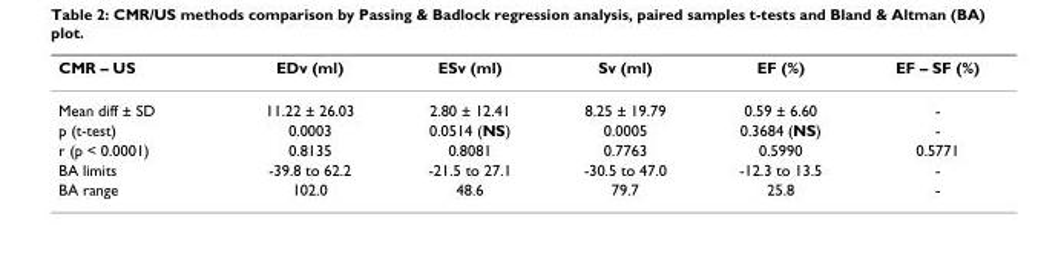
<table><thead><tr><td>CMR – US</td><td>EDv (ml)</td><td>ESv (ml)</td><td>Sv (ml)</td><td>EF (%)</td><td>EF – SF (%)</td></tr></thead><tbody><tr><td>Mean diff ± SD</td><td>11.22 ± 26.03</td><td>2.80 ± 12.41</td><td>8.25 ± 19.79</td><td>0.59 ± 6.60</td><td>-</td></tr><tr><td>p (t-test)</td><td>0.0003</td><td>0.0514 (NS)</td><td>0.0005</td><td>0.3684 (NS)</td><td>-</td></tr><tr><td>r (p &lt; 0.0001)</td><td>0.8135</td><td>0.8081</td><td>0.7763</td><td>0.5990</td><td>0.5771</td></tr><tr><td>BA limits</td><td>-39.8 to 62.2</td><td>-21.5 to 27.1</td><td>-30.5 to 47.0</td><td>-12.3 to 13.5</td><td>-</td></tr><tr><td>BA range</td><td>102.0</td><td>48.6</td><td>79.7</td><td>25.8</td><td>-</td></tr></tbody></table>